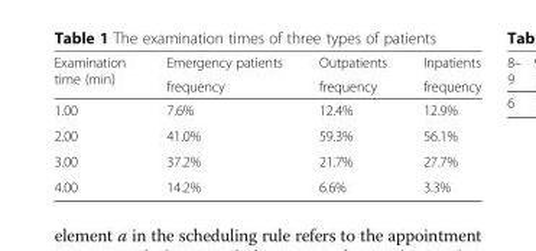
<table><thead><tr><td rowspan="2">Examination time (min)</td><td rowspan="2">Emergency patients frequency</td><td rowspan="2">Outpatients frequency</td><td rowspan="2">Inpatients frequency</td></tr><tr></tr></thead><tbody><tr><td>1.00</td><td>7.6%</td><td>12.4%</td><td>12.9%</td></tr><tr><td>2.00</td><td>41.0%</td><td>59.3%</td><td>56.1%</td></tr><tr><td>3.00</td><td>37.2%</td><td>21.7%</td><td>27.7%</td></tr><tr><td>4.00</td><td>14.2%</td><td>6.6%</td><td>3.3%</td></tr></tbody></table>